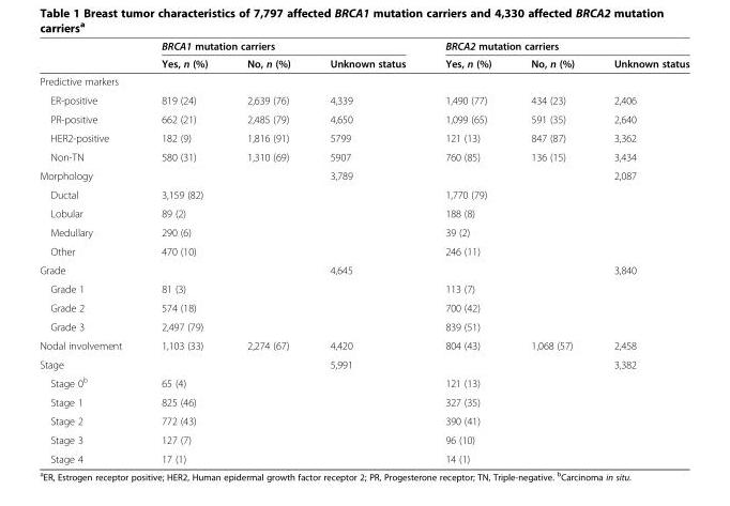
<table><thead><tr><td rowspan="2"></td><td colspan="3">BRCA1 mutation carriers</td><td colspan="3">BRCA2 mutation carriers</td></tr><tr><td>Yes, n (%)</td><td>No, n (%)</td><td>Unknown status</td><td>Yes, n (%)</td><td>No, n (%)</td><td>Unknown status</td></tr></thead><tbody><tr><td colspan="7">Predictive markers</td></tr><tr><td>ER-positive</td><td>819 (24)</td><td>2,639 (76)</td><td>4,339</td><td>1,490 (77)</td><td>434 (23)</td><td>2,406</td></tr><tr><td>PR-positive</td><td>662 (21)</td><td>2,485 (79)</td><td>4,650</td><td>1,099 (65)</td><td>591 (35)</td><td>2,640</td></tr><tr><td>HER2-positive</td><td>182 (9)</td><td>1,816 (91)</td><td>5799</td><td>121 (13)</td><td>847 (87)</td><td>3,362</td></tr><tr><td>Non-TN</td><td>580 (31)</td><td>1,310 (69)</td><td>5907</td><td>760 (85)</td><td>136 (15)</td><td>3,434</td></tr><tr><td>Morphology</td><td></td><td></td><td>3,789</td><td></td><td></td><td>2,087</td></tr><tr><td>Ductal</td><td>3,159 (82)</td><td></td><td></td><td>1,770 (79)</td><td></td><td></td></tr><tr><td>Lobular</td><td>89 (2)</td><td></td><td></td><td>188 (8)</td><td></td><td></td></tr><tr><td>Medullary</td><td>290 (6)</td><td></td><td></td><td>39 (2)</td><td></td><td></td></tr><tr><td>Other</td><td>470 (10)</td><td></td><td></td><td>246 (11)</td><td></td><td></td></tr><tr><td>Grade</td><td></td><td></td><td>4,645</td><td></td><td></td><td>3,840</td></tr><tr><td>Grade 1</td><td>81 (3)</td><td></td><td></td><td>113 (7)</td><td></td><td></td></tr><tr><td>Grade 2</td><td>574 (18)</td><td></td><td></td><td>700 (42)</td><td></td><td></td></tr><tr><td>Grade 3</td><td>2,497 (79)</td><td></td><td></td><td>839 (51)</td><td></td><td></td></tr><tr><td>Nodal involvement</td><td>1,103 (33)</td><td>2,274 (67)</td><td>4,420</td><td>804 (43)</td><td>1,068 (57)</td><td>2,458</td></tr><tr><td>Stage</td><td></td><td></td><td>5,991</td><td></td><td></td><td>3,382</td></tr><tr><td>Stage 0<sup>b</sup></td><td>65 (4)</td><td></td><td></td><td>121 (13)</td><td></td><td></td></tr><tr><td>Stage 1</td><td>825 (46)</td><td></td><td></td><td>327 (35)</td><td></td><td></td></tr><tr><td>Stage 2</td><td>772 (43)</td><td></td><td></td><td>390 (41)</td><td></td><td></td></tr><tr><td>Stage 3</td><td>127 (7)</td><td></td><td></td><td>96 (10)</td><td></td><td></td></tr><tr><td>Stage 4</td><td>17 (1)</td><td></td><td></td><td>14 (1)</td><td></td><td></td></tr></tbody></table>